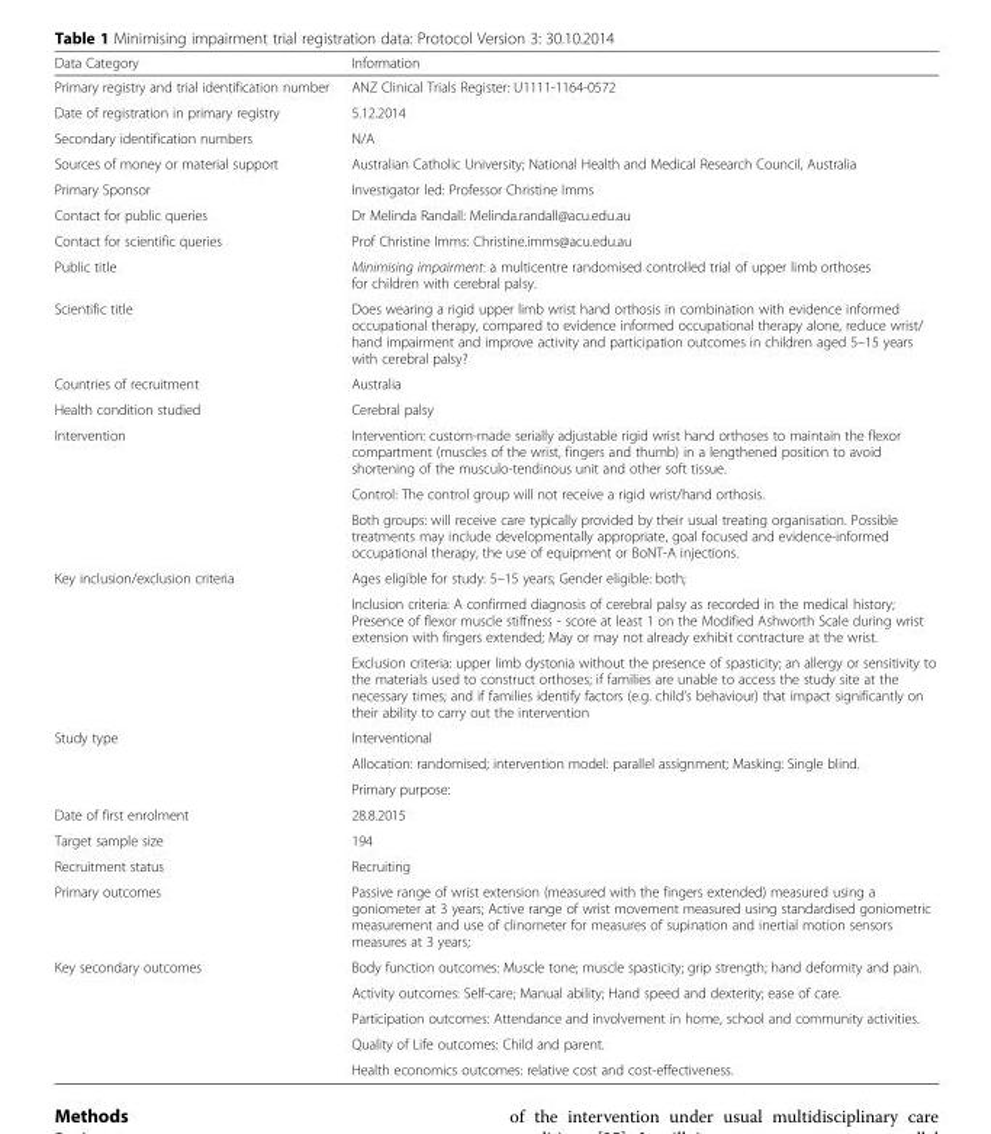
<table><thead><tr><td>Data Category</td><td>Information</td></tr></thead><tbody><tr><td>Primary registry and trial identification number</td><td>ANZ Clinical Trials Register: U1111-1164-0572</td></tr><tr><td>Date of registration in primary registry</td><td>5.12.2014</td></tr><tr><td>Secondary identification numbers</td><td>N/A</td></tr><tr><td>Sources of money or material support</td><td>Australian Catholic University; National Health and Medical Research Council, Australia</td></tr><tr><td>Primary Sponsor</td><td>Investigator led: Professor Christine Imms</td></tr><tr><td>Contact for public queries</td><td>Dr Melinda Randall: Melinda.randall@acu.edu.au</td></tr><tr><td>Contact for scientific queries</td><td>Prof Christine Imms: Christine.imms@acu.edu.au</td></tr><tr><td>Public title</td><td>Minimising impairment: a multicentre randomised controlled trial of upper limb orthoses for children with cerebral palsy.</td></tr><tr><td>Scientific title</td><td>Does wearing a rigid upper limb wrist hand orthosis in combination with evidence informed occupational therapy, compared to evidence informed occupational therapy alone, reduce wrist/ hand impairment and improve activity and participation outcomes in children aged 5–15 years with cerebral palsy?</td></tr><tr><td>Countries of recruitment</td><td>Australia</td></tr><tr><td>Health condition studied</td><td>Cerebral palsy</td></tr><tr><td rowspan="3">Intervention</td><td>Intervention: custom-made serially adjustable rigid wrist hand orthoses to maintain the flexor compartment (muscles of the wrist, fingers and thumb) in a lengthened position to avoid shortening of the musculo-tendinous unit and other soft tissue.</td></tr><tr><td>Control: The control group will not receive a rigid wrist/hand orthosis.</td></tr><tr><td>Both groups: will receive care typically provided by their usual treating organisation. Possible treatments may include developmentally appropriate, goal focused and evidence-informed occupational therapy, the use of equipment or BoNT-A injections.</td></tr><tr><td rowspan="3">Key inclusion/exclusion criteria</td><td>Ages eligible for study: 5–15 years; Gender eligible: both;</td></tr><tr><td>Inclusion criteria: A confirmed diagnosis of cerebral palsy as recorded in the medical history; Presence of flexor muscle stiffness - score at least 1 on the Modified Ashworth Scale during wrist extension with fingers extended; May or may not already exhibit contracture at the wrist.</td></tr><tr><td>Exclusion criteria: upper limb dystonia without the presence of spasticity; an allergy or sensitivity to the materials used to construct orthoses; if families are unable to access the study site at the necessary times; and if families identify factors (e.g. child’s behaviour) that impact significantly on their ability to carry out the intervention</td></tr><tr><td rowspan="3">Study type</td><td>Interventional</td></tr><tr><td>Allocation: randomised; intervention model: parallel assignment; Masking: Single blind.</td></tr><tr><td>Primary purpose:</td></tr><tr><td>Date of first enrolment</td><td>28.8.2015</td></tr><tr><td>Target sample size</td><td>194</td></tr><tr><td>Recruitment status</td><td>Recruiting</td></tr><tr><td>Primary outcomes</td><td>Passive range of wrist extension (measured with the fingers extended) measured using a goniometer at 3 years; Active range of wrist movement measured using standardised goniometric measurement and use of clinometer for measures of supination and inertial motion sensors measures at 3 years;</td></tr><tr><td rowspan="5">Key secondary outcomes</td><td>Body function outcomes: Muscle tone; muscle spasticity; grip strength; hand deformity and pain.</td></tr><tr><td>Activity outcomes: Self-care; Manual ability; Hand speed and dexterity; ease of care.</td></tr><tr><td>Participation outcomes: Attendance and involvement in home, school and community activities.</td></tr><tr><td>Quality of Life outcomes: Child and parent.</td></tr><tr><td>Health economics outcomes: relative cost and cost-effectiveness.</td></tr></tbody></table>